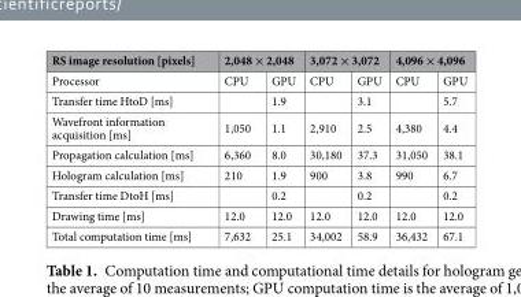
<table><thead><tr><td rowspan="2">RS image resolution [pixels] Processor</td><td colspan="2">2,048 × 2,048</td><td colspan="2">3,072 × 3,072</td><td colspan="2">4,096 × 4,096</td></tr><tr><td>CPU</td><td>GPU</td><td>CPU</td><td>GPU</td><td>CPU</td><td>GPU</td></tr></thead><tbody><tr><td>Transfer time HtoD [ms]</td><td></td><td>1.9</td><td></td><td>3.1</td><td></td><td>5.7</td></tr><tr><td>Wavefront information acquisition [ms]</td><td>1,050</td><td>1.1</td><td>2,910</td><td>2.5</td><td>4,380</td><td>4.4</td></tr><tr><td>Propagation calculation [ms]</td><td>6,360</td><td>8.0</td><td>30,180</td><td>37.3</td><td>31,050</td><td>38.1</td></tr><tr><td>Hologram calculation [ms]</td><td>210</td><td>1.9</td><td>900</td><td>3.8</td><td>990</td><td>6.7</td></tr><tr><td>Transfer time DtoH [ms]</td><td></td><td>0.2</td><td></td><td>0.2</td><td></td><td>0.2</td></tr><tr><td>Drawing time [ms]</td><td>12.0</td><td>12.0</td><td>12.0</td><td>12.0</td><td>12.0</td><td>12.0</td></tr><tr><td>Total computation time [ms]</td><td>7,632</td><td>25.1</td><td>34,002</td><td>58.9</td><td>36,432</td><td>67.1</td></tr></tbody></table>